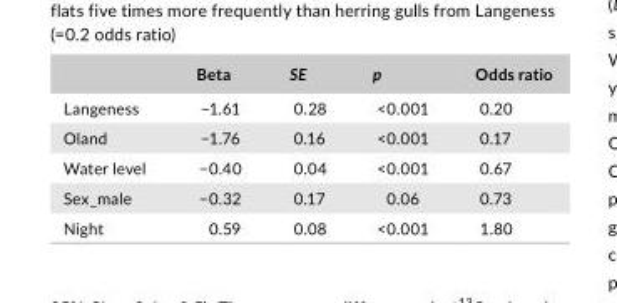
<table><thead><tr><td></td><td>Beta</td><td>SE</td><td>p</td><td>Odds ratio</td></tr></thead><tbody><tr><td>Langeness</td><td>−1.61</td><td>0.28</td><td>&lt;0.001</td><td>0.20</td></tr><tr><td>Oland</td><td>−1.76</td><td>0.16</td><td>&lt;0.001</td><td>0.17</td></tr><tr><td>Water level</td><td>−0.40</td><td>0.04</td><td>&lt;0.001</td><td>0.67</td></tr><tr><td>Sex_male</td><td>−0.32</td><td>0.17</td><td>0.06</td><td>0.73</td></tr><tr><td>Night</td><td>0.59</td><td>0.08</td><td>&lt;0.001</td><td>1.80</td></tr></tbody></table>